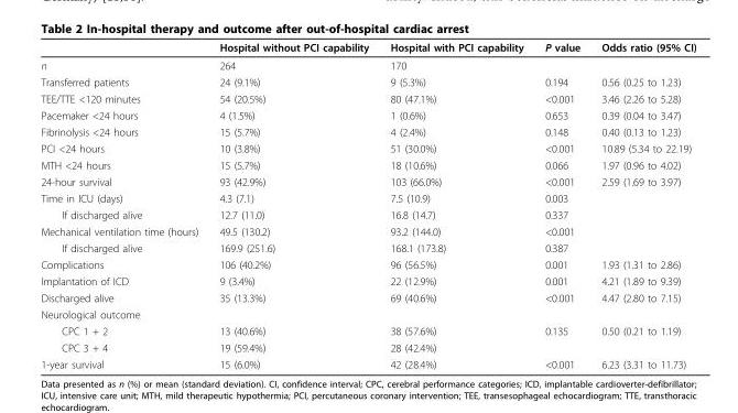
<table><thead><tr><td></td><td>Hospital without PCI capability</td><td>Hospital with PCI capability</td><td>P value</td><td>Odds ratio (95% CI)</td></tr></thead><tbody><tr><td>n</td><td>264</td><td>170</td><td></td><td></td></tr><tr><td>Transferred patients</td><td>24 (9.1%)</td><td>9 (5.3%)</td><td>0.194</td><td>0.56 (0.25 to 1.23)</td></tr><tr><td>TEE/TTE &lt;120 minutes</td><td>54 (20.5%)</td><td>80 (47.1%)</td><td>&lt;0.001</td><td>3.46 (2.26 to 5.28)</td></tr><tr><td>Pacemaker &lt;24 hours</td><td>4 (1.5%)</td><td>1 (0.6%)</td><td>0.653</td><td>0.39 (0.04 to 3.47)</td></tr><tr><td>Fibrinolysis &lt;24 hours</td><td>15 (5.7%)</td><td>4 (2.4%)</td><td>0.148</td><td>0.40 (0.13 to 1.23)</td></tr><tr><td>PCI &lt;24 hours</td><td>10 (3.8%)</td><td>51 (30.0%)</td><td>&lt;0.001</td><td>10.89 (5.34 to 22.19)</td></tr><tr><td>MTH &lt;24 hours</td><td>15 (5.7%)</td><td>18 (10.6%)</td><td>0.066</td><td>1.97 (0.96 to 4.02)</td></tr><tr><td>24-hour survival</td><td>93 (42.9%)</td><td>103 (66.0%)</td><td>&lt;0.001</td><td>2.59 (1.69 to 3.97)</td></tr><tr><td>Time in ICU (days)</td><td>4.3 (7.1)</td><td>7.5 (10.9)</td><td>0.003</td><td></td></tr><tr><td>If discharged alive</td><td>12.7 (11.0)</td><td>16.8 (14.7)</td><td>0.337</td><td></td></tr><tr><td>Mechanical ventilation time (hours)</td><td>49.5 (130.2)</td><td>93.2 (144.0)</td><td>&lt;0.001</td><td></td></tr><tr><td>If discharged alive</td><td>169.9 (251.6)</td><td>168.1 (173.8)</td><td>0.387</td><td></td></tr><tr><td>Complications</td><td>106 (40.2%)</td><td>96 (56.5%)</td><td>0.001</td><td>1.93 (1.31 to 2.86)</td></tr><tr><td>Implantation of ICD</td><td>9 (3.4%)</td><td>22 (12.9%)</td><td>0.001</td><td>4.21 (1.89 to 9.39)</td></tr><tr><td>Discharged alive</td><td>35 (13.3%)</td><td>69 (40.6%)</td><td>&lt;0.001</td><td>4.47 (2.80 to 7.15)</td></tr><tr><td colspan="5">Neurological outcome</td></tr><tr><td>CPC 1 + 2</td><td>13 (40.6%)</td><td>38 (57.6%)</td><td>0.135</td><td>0.50 (0.21 to 1.19)</td></tr><tr><td>CPC 3 + 4</td><td>19 (59.4%)</td><td>28 (42.4%)</td><td></td><td></td></tr><tr><td>1-year survival</td><td>15 (6.0%)</td><td>42 (28.4%)</td><td>&lt;0.001</td><td>6.23 (3.31 to 11.73)</td></tr></tbody></table>